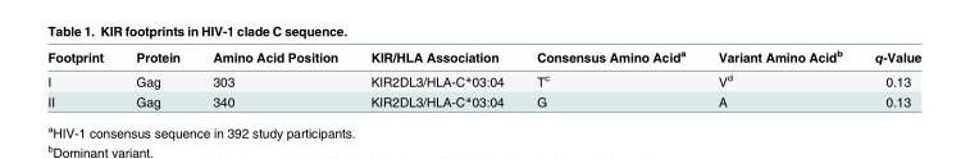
<table><thead><tr><td>Footprint</td><td>Protein</td><td>Amino Acid Position</td><td>KIR/HLA Association</td><td>Consensus Amino Acid<sup>a</sup></td><td>Variant Amino Acid<sup>b</sup></td><td>q-Value</td></tr></thead><tbody><tr><td>I</td><td>Gag</td><td>303</td><td>KIR2DL3/HLA-C*03:04</td><td>T<sup>c</sup></td><td>V<sup>d</sup></td><td>0.13</td></tr><tr><td>II</td><td>Gag</td><td>340</td><td>KIR2DL3/HLA-C*03:04</td><td>G</td><td>A</td><td>0.13</td></tr></tbody></table>